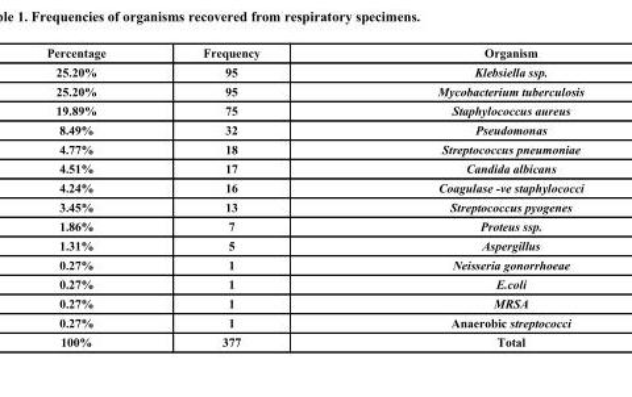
<table><thead><tr><td>Percentage</td><td>Frequency</td><td>Organism</td></tr></thead><tbody><tr><td>25.20%</td><td>95</td><td>Klebsiella ssp.</td></tr><tr><td>25.20%</td><td>95</td><td>Mycobacterium tuberculosis</td></tr><tr><td>19.89%</td><td>75</td><td>Staphylococcus aureus</td></tr><tr><td>8.49%</td><td>32</td><td>Pseudomonas</td></tr><tr><td>4.77%</td><td>18</td><td>Streptococcus pneumoniae</td></tr><tr><td>4.51%</td><td>17</td><td>Candida albicans</td></tr><tr><td>4.24%</td><td>16</td><td>Coagulase -ve staphylococci</td></tr><tr><td>3.45%</td><td>13</td><td>Streptococcus pyogenes</td></tr><tr><td>1.86%</td><td>7</td><td>Proteus ssp.</td></tr><tr><td>1.31%</td><td>5</td><td>Aspergillus</td></tr><tr><td>0.27%</td><td>1</td><td>Neisseria gonorrhoeae</td></tr><tr><td>0.27%</td><td>1</td><td>E.coli</td></tr><tr><td>0.27%</td><td>1</td><td>MRSA</td></tr><tr><td>0.27%</td><td>1</td><td>Anaerobic streptococci</td></tr><tr><td>100%</td><td>377</td><td>Total</td></tr></tbody></table>